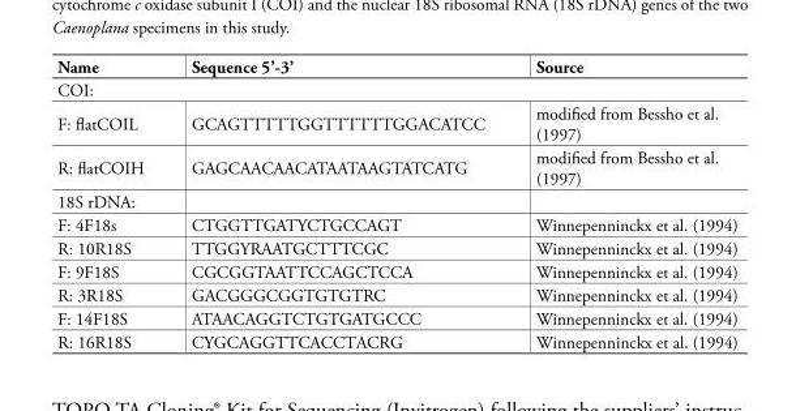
<table><thead><tr><td>Name</td><td>Sequence 5’-3’</td><td>Source</td></tr></thead><tbody><tr><td colspan="3">COI:</td></tr><tr><td>F: flatCOIL</td><td>GCAGTTTTTGGTTTTTTGGACATCC</td><td>modified from Bessho et al. (1997)</td></tr><tr><td>R: flatCOIH</td><td>GAGCAACAACATAATAAGTATCATG</td><td>modified from Bessho et al. (1997)</td></tr><tr><td colspan="3">18S rDNA:</td></tr><tr><td>F: 4F18s</td><td>CTGGTTGATYCTGCCAGT</td><td>Winnepenninckx et al. (1994)</td></tr><tr><td>R: 10R18S</td><td>TTGGYRAATGCTTTCGC</td><td>Winnepenninckx et al. (1994)</td></tr><tr><td>F: 9F18S</td><td>CGCGGTAATTCCAGCTCCA</td><td>Winnepenninckx et al. (1994)</td></tr><tr><td>R: 3R18S</td><td>GACGGGCGGTGTGTRC</td><td>Winnepenninckx et al. (1994)</td></tr><tr><td>F: 14F18S</td><td>ATAACAGGTCTGTGATGCCC</td><td>Winnepenninckx et al. (1994)</td></tr><tr><td>R: 16R18S</td><td>CYGCAGGTTCACCTACRG</td><td>Winnepenninckx et al. (1994)</td></tr></tbody></table>